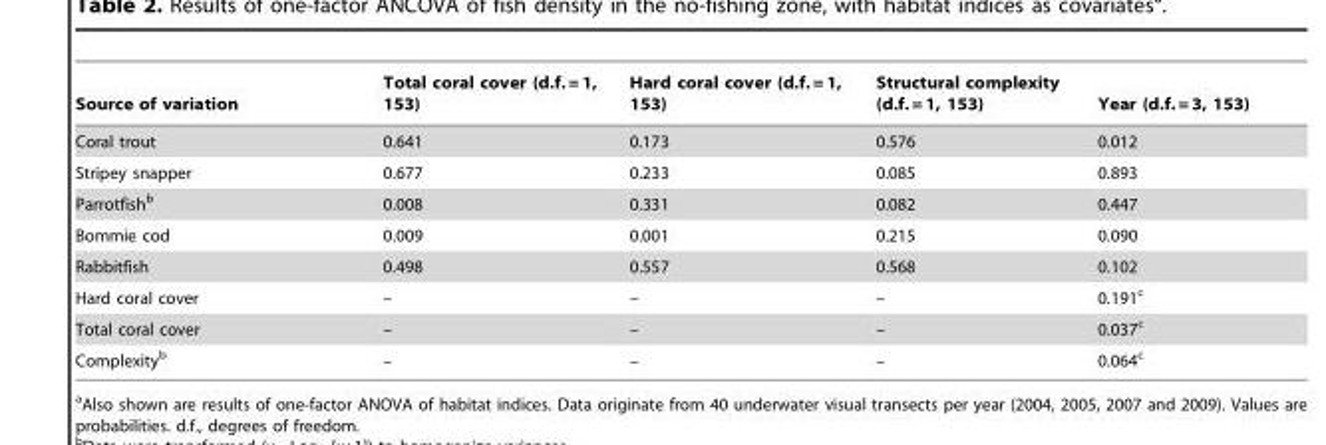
<table><thead><tr><td>Source of variation</td><td>Total coral cover (d.f. = 1, 153)</td><td>Hard coral cover (d.f. = 1, 153)</td><td>Structural complexity (d.f. = 1, 153)</td><td>Year (d.f. = 3, 153)</td></tr></thead><tbody><tr><td>Coral trout</td><td>0.641</td><td>0.173</td><td>0.576</td><td>0.012</td></tr><tr><td>Stripey snapper</td><td>0.677</td><td>0.233</td><td>0.085</td><td>0.893</td></tr><tr><td>Parrotfish<sup>b</sup></td><td>0.008</td><td>0.331</td><td>0.082</td><td>0.447</td></tr><tr><td>Bommie cod</td><td>0.009</td><td>0.001</td><td>0.215</td><td>0.090</td></tr><tr><td>Rabbitfish</td><td>0.498</td><td>0.557</td><td>0.568</td><td>0.102</td></tr><tr><td>Hard coral cover</td><td>–</td><td>–</td><td>–</td><td>0.191<sup>c</sup></td></tr><tr><td>Total coral cover</td><td>–</td><td>–</td><td>–</td><td>0.037<sup>c</sup></td></tr><tr><td>Complexity<sup>b</sup></td><td>–</td><td>–</td><td>–</td><td>0.064<sup>c</sup></td></tr></tbody></table>